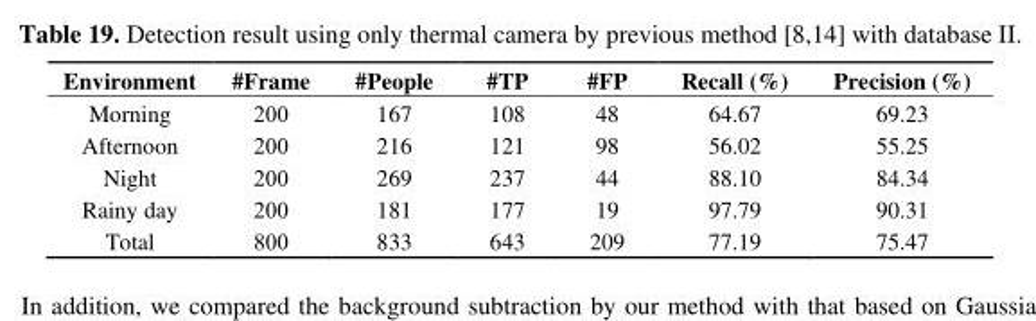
<table><thead><tr><td>Environment</td><td>#Frame</td><td>#People</td><td>#TP</td><td>#FP</td><td>Recall (%)</td><td>Precision (%)</td></tr></thead><tbody><tr><td>Morning</td><td>200</td><td>167</td><td>108</td><td>48</td><td>64.67</td><td>69.23</td></tr><tr><td>Afternoon</td><td>200</td><td>216</td><td>121</td><td>98</td><td>56.02</td><td>55.25</td></tr><tr><td>Night</td><td>200</td><td>269</td><td>237</td><td>44</td><td>88.10</td><td>84.34</td></tr><tr><td>Rainy day</td><td>200</td><td>181</td><td>177</td><td>19</td><td>97.79</td><td>90.31</td></tr><tr><td>Total</td><td>800</td><td>833</td><td>643</td><td>209</td><td>77.19</td><td>75.47</td></tr></tbody></table>